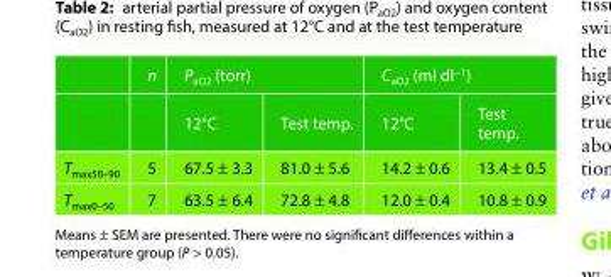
<table><thead><tr><td rowspan="2"></td><td rowspan="2">n</td><td colspan="2">P<sub>aO2</sub> (torr)</td><td colspan="2">C<sub>aO2</sub> (ml dl<sup>−1</sup>)</td></tr><tr><td>12°C</td><td>Test temp.</td><td>12°C</td><td>Test temp.</td></tr></thead><tbody><tr><td>T<sub>max50–90</sub></td><td>5</td><td>67.5 ± 3.3</td><td>81.0 ± 5.6</td><td>14.2 ± 0.6</td><td>13.4 ± 0.5</td></tr><tr><td>T<sub>max0–50</sub></td><td>7</td><td>63.5 ± 6.4</td><td>72.8 ± 4.8</td><td>12.0 ± 0.4</td><td>10.8 ± 0.9</td></tr></tbody></table>